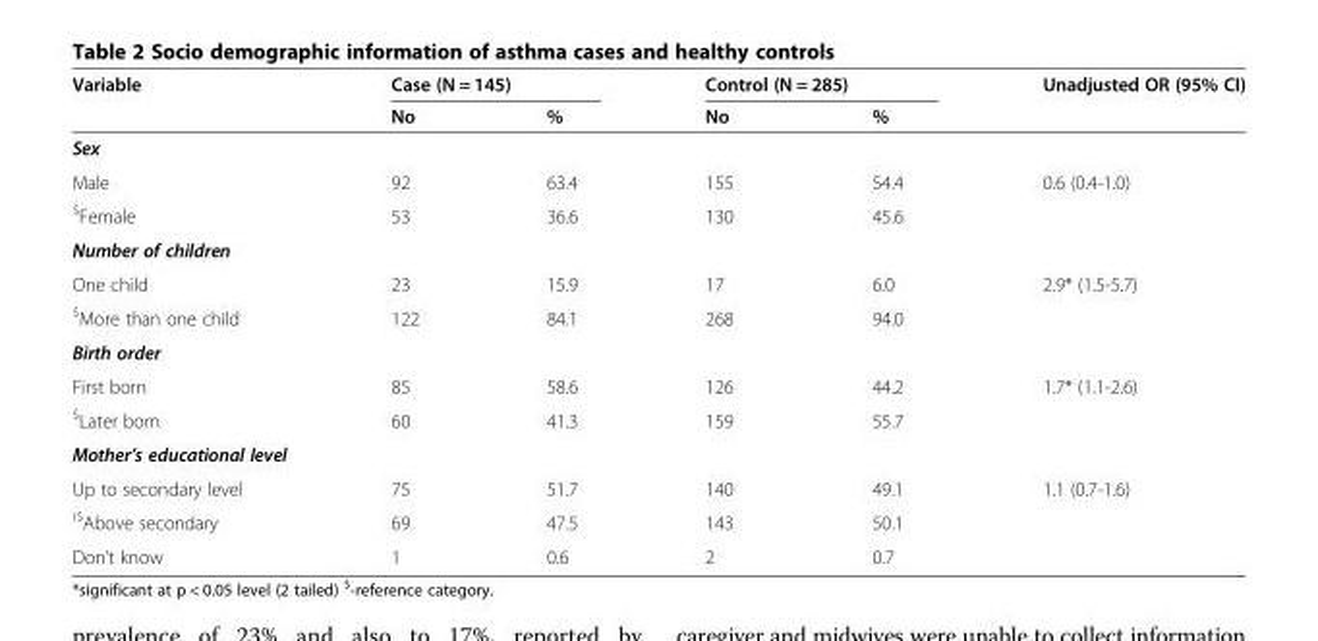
<table><thead><tr><td rowspan="2">Variable</td><td colspan="2">Case (N = 145)</td><td colspan="2">Control (N = 285)</td><td rowspan="2">Unadjusted OR (95% CI)</td></tr><tr><td>No</td><td>%</td><td>No</td><td>%</td></tr></thead><tbody><tr><td colspan="6">Sex</td></tr><tr><td>Male</td><td>92</td><td>63.4</td><td>155</td><td>54.4</td><td>0.6 (0.4-1.0)</td></tr><tr><td><sup>$</sup>Female</td><td>53</td><td>36.6</td><td>130</td><td>45.6</td><td></td></tr><tr><td colspan="6">Number of children</td></tr><tr><td>One child</td><td>23</td><td>15.9</td><td>17</td><td>6.0</td><td>2.9* (1.5-5.7)</td></tr><tr><td><sup>$</sup>More than one child</td><td>122</td><td>84.1</td><td>268</td><td>94.0</td><td></td></tr><tr><td colspan="6">Birth order</td></tr><tr><td>First born</td><td>85</td><td>58.6</td><td>126</td><td>44.2</td><td>1.7* (1.1-2.6)</td></tr><tr><td><sup>$</sup>Later born</td><td>60</td><td>41.3</td><td>159</td><td>55.7</td><td></td></tr><tr><td colspan="6">Mother’s educational level</td></tr><tr><td>Up to secondary level</td><td>75</td><td>51.7</td><td>140</td><td>49.1</td><td>1.1 (0.7-1.6)</td></tr><tr><td><sup>)$</sup>Above secondary</td><td>69</td><td>47.5</td><td>143</td><td>50.1</td><td></td></tr><tr><td>Don’t know</td><td>1</td><td>0.6</td><td>2</td><td>0.7</td><td></td></tr></tbody></table>